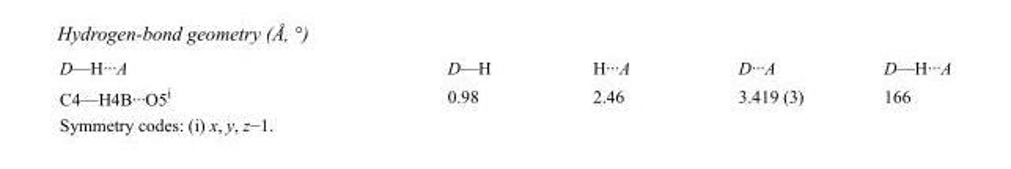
<table><tbody><tr><td>D—H···A</td><td>D—H</td><td>H···A</td><td>D···A</td><td>D—H···A</td></tr><tr><td>C4—H4B···O5<sup>i</sup></td><td>0.98</td><td>2.46</td><td>3.419 (3)</td><td>166</td></tr></tbody></table>